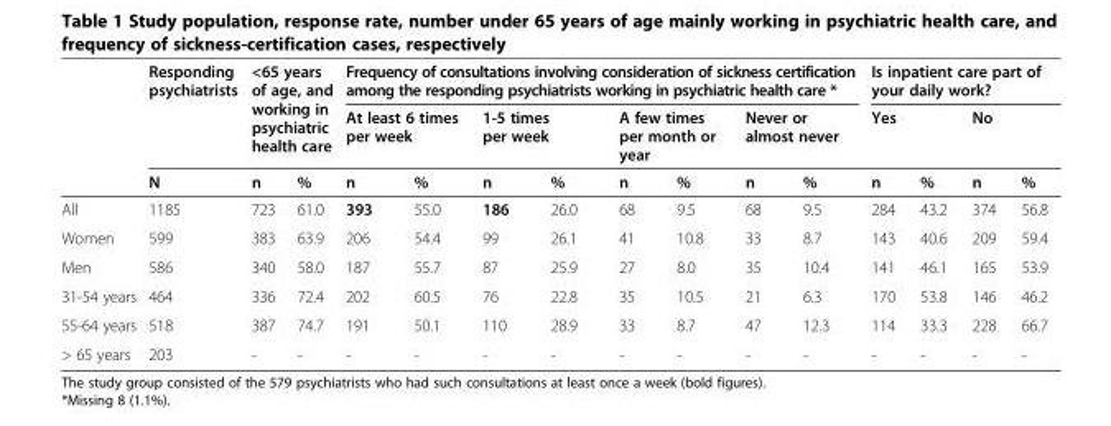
<table><thead><tr><td rowspan="3"></td><td rowspan="3">Responding psychiatrists N</td><td rowspan="2" colspan="2">&lt;65 years of age, and working in psychiatric health care</td><td colspan="8">Frequency of consultations involving consideration of sickness certification among the responding psychiatrists working in psychiatric health care *</td><td colspan="4">Is inpatient care part of your daily work?</td></tr><tr><td colspan="2">At least 6 times per week</td><td colspan="2">1-5 times per week</td><td colspan="2">A few times per month or year</td><td colspan="2">Never or almost never</td><td colspan="2">Yes</td><td colspan="2">No</td></tr><tr><td>n</td><td>%</td><td>n</td><td>%</td><td>n</td><td>%</td><td>n</td><td>%</td><td>n</td><td>%</td><td>n</td><td>%</td><td>n</td><td>%</td></tr></thead><tbody><tr><td>All</td><td>1185</td><td>723</td><td>61.0</td><td>393</td><td>55.0</td><td>186</td><td>26.0</td><td>68</td><td>9.5</td><td>68</td><td>9.5</td><td>284</td><td>43.2</td><td>374</td><td>56.8</td></tr><tr><td>Women</td><td>599</td><td>383</td><td>63.9</td><td>206</td><td>54.4</td><td>99</td><td>26.1</td><td>41</td><td>10.8</td><td>33</td><td>8.7</td><td>143</td><td>40.6</td><td>209</td><td>59.4</td></tr><tr><td>Men</td><td>586</td><td>340</td><td>58.0</td><td>187</td><td>55.7</td><td>87</td><td>25.9</td><td>27</td><td>8.0</td><td>35</td><td>10.4</td><td>141</td><td>46.1</td><td>165</td><td>53.9</td></tr><tr><td>31-54 years</td><td>464</td><td>336</td><td>72.4</td><td>202</td><td>60.5</td><td>76</td><td>22.8</td><td>35</td><td>10.5</td><td>21</td><td>6.3</td><td>170</td><td>53.8</td><td>146</td><td>46.2</td></tr><tr><td>55-64 years</td><td>518</td><td>387</td><td>74.7</td><td>191</td><td>50.1</td><td>110</td><td>28.9</td><td>33</td><td>8.7</td><td>47</td><td>12.3</td><td>114</td><td>33.3</td><td>228</td><td>66.7</td></tr><tr><td>&gt; 65 years</td><td>203</td><td>-</td><td>-</td><td>-</td><td>-</td><td>-</td><td>-</td><td>-</td><td>-</td><td>-</td><td>-</td><td>-</td><td>-</td><td>-</td><td>-</td></tr></tbody></table>